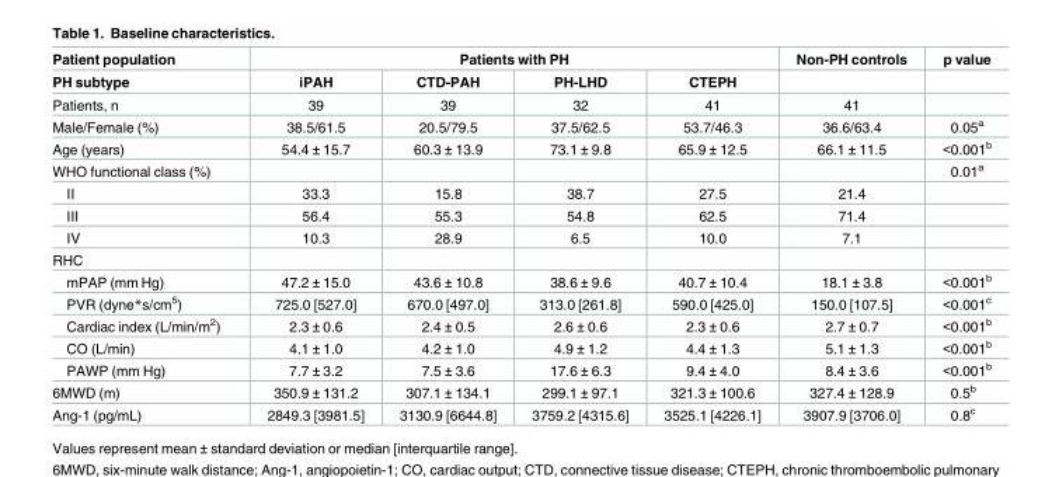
<table><thead><tr><td rowspan="2">Patient population PH subtype</td><td colspan="4">Patients with PH</td><td rowspan="2">Non-PH controls</td><td rowspan="2">p value</td></tr><tr><td>iPAH</td><td>CTD-PAH</td><td>PH-LHD</td><td>CTEPH</td></tr></thead><tbody><tr><td>Patients, n</td><td>39</td><td>39</td><td>32</td><td>41</td><td>41</td><td></td></tr><tr><td>Male/Female (%)</td><td>38.5/61.5</td><td>20.5/79.5</td><td>37.5/62.5</td><td>53.7/46.3</td><td>36.6/63.4</td><td>0.05<sup>a</sup></td></tr><tr><td>Age (years)</td><td>54.4 ± 15.7</td><td>60.3 ± 13.9</td><td>73.1 ± 9.8</td><td>65.9 ± 12.5</td><td>66.1 ± 11.5</td><td>&lt;0.001<sup>b</sup></td></tr><tr><td>WHO functional class (%)</td><td></td><td></td><td></td><td></td><td></td><td>0.01<sup>a</sup></td></tr><tr><td>II</td><td>33.3</td><td>15.8</td><td>38.7</td><td>27.5</td><td>21.4</td><td></td></tr><tr><td>III</td><td>56.4</td><td>55.3</td><td>54.8</td><td>62.5</td><td>71.4</td><td></td></tr><tr><td>IV</td><td>10.3</td><td>28.9</td><td>6.5</td><td>10.0</td><td>7.1</td><td></td></tr><tr><td colspan="7">RHC</td></tr><tr><td>mPAP (mm Hg)</td><td>47.2 ± 15.0</td><td>43.6 ± 10.8</td><td>38.6 ± 9.6</td><td>40.7 ± 10.4</td><td>18.1 ± 3.8</td><td>&lt;0.001<sup>b</sup></td></tr><tr><td>PVR (dyne*s/cm<sup>5</sup>)</td><td>725.0 [527.0]</td><td>670.0 [497.0]</td><td>313.0 [261.8]</td><td>590.0 [425.0]</td><td>150.0 [107.5]</td><td>&lt;0.001<sup>c</sup></td></tr><tr><td>Cardiac index (L/min/m<sup>2</sup>)</td><td>2.3 ± 0.6</td><td>2.4 ± 0.5</td><td>2.6 ± 0.6</td><td>2.3 ± 0.6</td><td>2.7 ± 0.7</td><td>&lt;0.001<sup>b</sup></td></tr><tr><td>CO (L/min)</td><td>4.1 ± 1.0</td><td>4.2 ± 1.0</td><td>4.9 ± 1.2</td><td>4.4 ± 1.3</td><td>5.1 ± 1.3</td><td>&lt;0.001<sup>b</sup></td></tr><tr><td>PAWP (mm Hg)</td><td>7.7 ± 3.2</td><td>7.5 ± 3.6</td><td>17.6 ± 6.3</td><td>9.4 ± 4.0</td><td>8.4 ± 3.6</td><td>&lt;0.001<sup>b</sup></td></tr><tr><td>6MWD (m)</td><td>350.9 ± 131.2</td><td>307.1 ± 134.1</td><td>299.1 ± 97.1</td><td>321.3 ± 100.6</td><td>327.4 ± 128.9</td><td>0.5<sup>b</sup></td></tr><tr><td>Ang-1 (pg/mL)</td><td>2849.3 [3981.5]</td><td>3130.9 [6644.8]</td><td>3759.2 [4315.6]</td><td>3525.1 [4226.1]</td><td>3907.9 [3706.0]</td><td>0.8<sup>c</sup></td></tr></tbody></table>